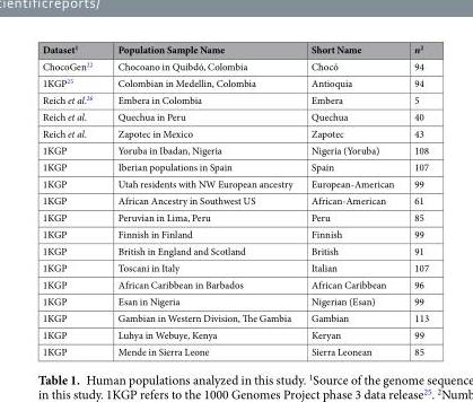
<table><thead><tr><td>Dataset<sup>1</sup></td><td>Population Sample Name</td><td>Short Name</td><td>n<sup>2</sup></td></tr></thead><tbody><tr><td>ChocoGen<sup>22</sup></td><td>Chocoano in Quibdó, Colombia</td><td>Chocó</td><td>94</td></tr><tr><td>1KGP<sup>25</sup></td><td>Colombian in Medellin, Colombia</td><td>Antioquia</td><td>94</td></tr><tr><td>Reich et al.<sup>26</sup></td><td>Embera in Colombia</td><td>Embera</td><td>5</td></tr><tr><td>Reich et al.</td><td>Quechua in Peru</td><td>Quechua</td><td>40</td></tr><tr><td>Reich et al.</td><td>Zapotec in Mexico</td><td>Zapotec</td><td>43</td></tr><tr><td>1KGP</td><td>Yoruba in Ibadan, Nigeria</td><td>Nigeria (Yoruba)</td><td>108</td></tr><tr><td>1KGP</td><td>Iberian populations in Spain</td><td>Spain</td><td>107</td></tr><tr><td>1KGP</td><td>Utah residents with NW European ancestry</td><td>European-American</td><td>99</td></tr><tr><td>1KGP</td><td>African Ancestry in Southwest US</td><td>African-American</td><td>61</td></tr><tr><td>1KGP</td><td>Peruvian in Lima, Peru</td><td>Peru</td><td>85</td></tr><tr><td>1KGP</td><td>Finnish in Finland</td><td>Finnish</td><td>99</td></tr><tr><td>1KGP</td><td>British in England and Scotland</td><td>British</td><td>91</td></tr><tr><td>1KGP</td><td>Toscani in Italy</td><td>Italian</td><td>107</td></tr><tr><td>1KGP</td><td>African Caribbean in Barbados</td><td>African Caribbean</td><td>96</td></tr><tr><td>1KGP</td><td>Esan in Nigeria</td><td>Nigerian (Esan)</td><td>99</td></tr><tr><td>1KGP</td><td>Gambian in Western Division, The Gambia</td><td>Gambian</td><td>113</td></tr><tr><td>1KGP</td><td>Luhya in Webuye, Kenya</td><td>Keryan</td><td>99</td></tr><tr><td>1KGP</td><td>Mende in Sierra Leone</td><td>Sierra Leonean</td><td>85</td></tr></tbody></table>